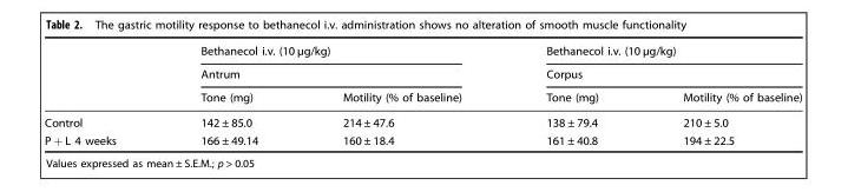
<table><thead><tr><td rowspan="3"></td><td rowspan="2" colspan="2">Bethanecol i.v. (10 µg/kg) Antrum</td><td rowspan="2" colspan="2">Bethanecol i.v. (10 µg/kg) Corpus</td></tr><tr></tr><tr><td>Tone (mg)</td><td>Motility (% of baseline)</td><td>Tone (mg)</td><td>Motility (% of baseline)</td></tr></thead><tbody><tr><td>Control</td><td>142 ± 85.0</td><td>214 ± 47.6</td><td>138 ± 79.4</td><td>210 ± 5.0</td></tr><tr><td>P + L 4 weeks</td><td>166 ± 49.14</td><td>160 ± 18.4</td><td>161 ± 40.8</td><td>194 ± 22.5</td></tr></tbody></table>